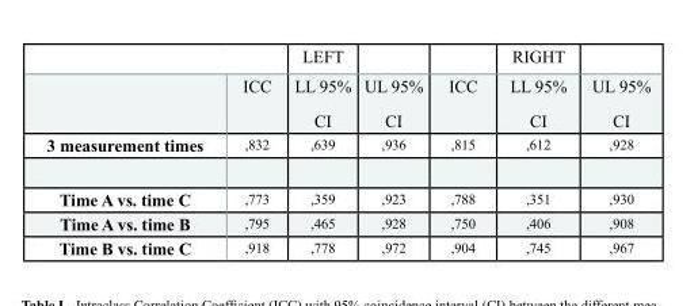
<table><thead><tr><td rowspan="2"></td><td colspan="3">LEFT</td><td colspan="3">RIGHT</td></tr><tr><td>ICC</td><td>LL 95% CI</td><td>UL 95% CI</td><td>ICC</td><td>LL 95% CI</td><td>UL 95% CI</td></tr></thead><tbody><tr><td>3 measurement times</td><td>,832</td><td>,639</td><td>,936</td><td>,815</td><td>,612</td><td>,928</td></tr><tr><td>Time A vs. time C</td><td>,773</td><td>,359</td><td>,923</td><td>,788</td><td>,351</td><td>,930</td></tr><tr><td>Time A vs. time B</td><td>,795</td><td>,465</td><td>,928</td><td>,750</td><td>,406</td><td>,908</td></tr><tr><td>Time B vs. time C</td><td>,918</td><td>,778</td><td>,972</td><td>,904</td><td>,745</td><td>,967</td></tr></tbody></table>